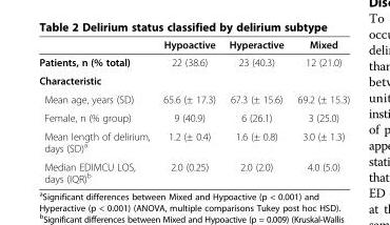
<table><thead><tr><td></td><td>Hypoactive</td><td>Hyperactive</td><td>Mixed</td></tr></thead><tbody><tr><td>Patients, n (% total)</td><td>22 (38.6)</td><td>23 (40.3)</td><td>12 (21.0)</td></tr><tr><td colspan="4">Characteristic</td></tr><tr><td>Mean age, years (SD)</td><td>65.6 (± 17.3)</td><td>67.3 (± 15.6)</td><td>69.2 (± 15.3)</td></tr><tr><td>Female, n (% group)</td><td>9 (40.9)</td><td>6 (26.1)</td><td>3 (25.0)</td></tr><tr><td>Mean length of delirium, days (SD)<sup>a</sup></td><td>1.2 (± 0.4)</td><td>1.6 (± 0.8)</td><td>3.0 (± 1.3)</td></tr><tr><td>Median EDIMCU LOS, days (IQR)<sup>b</sup></td><td>2.0 (0.25)</td><td>2.0 (2.0)</td><td>4.0 (5.0)</td></tr></tbody></table>